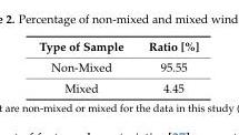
<table><thead><tr><td>Type of Sample</td><td>Ratio [%]</td></tr></thead><tbody><tr><td>Non-Mixed</td><td>95.55</td></tr><tr><td>Mixed</td><td>4.45</td></tr></tbody></table>